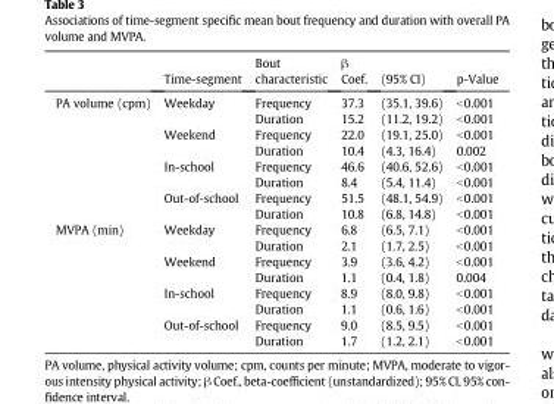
<table><thead><tr><td></td><td>Time-segment</td><td>Bout characteristic</td><td>β Coef.</td><td>(95% CI)</td><td>p-Value</td></tr></thead><tbody><tr><td rowspan="8">PA volume (cpm)</td><td rowspan="2">Weekday</td><td>Frequency</td><td>37.3</td><td>(35.1, 39.6)</td><td>&lt;0.001</td></tr><tr><td>Duration</td><td>15.2</td><td>(11.2, 19.2)</td><td>&lt;0.001</td></tr><tr><td rowspan="2">Weekend</td><td>Frequency</td><td>22.0</td><td>(19.1, 25.0)</td><td>&lt;0.001</td></tr><tr><td>Duration</td><td>10.4</td><td>(4.3, 16.4)</td><td>0.002</td></tr><tr><td rowspan="2">In-school</td><td>Frequency</td><td>46.6</td><td>(40.6, 52.6)</td><td>&lt;0.001</td></tr><tr><td>Duration</td><td>8.4</td><td>(5.4, 11.4)</td><td>&lt;0.001</td></tr><tr><td rowspan="2">Out-of-school</td><td>Frequency</td><td>51.5</td><td>(48.1, 54.9)</td><td>&lt;0.001</td></tr><tr><td>Duration</td><td>10.8</td><td>(6.8, 14.8)</td><td>&lt;0.001</td></tr><tr><td rowspan="8">MVPA (min)</td><td rowspan="2">Weekday</td><td>Frequency</td><td>6.8</td><td>(6.5, 7.1)</td><td>&lt;0.001</td></tr><tr><td>Duration</td><td>2.1</td><td>(1.7, 2.5)</td><td>&lt;0.001</td></tr><tr><td rowspan="2">Weekend</td><td>Frequency</td><td>3.9</td><td>(3.6, 4.2)</td><td>&lt;0.001</td></tr><tr><td>Duration</td><td>1.1</td><td>(0.4, 1.8)</td><td>0.004</td></tr><tr><td rowspan="2">In-school</td><td>Frequency</td><td>8.9</td><td>(8.0, 9.8)</td><td>&lt;0.001</td></tr><tr><td>Duration</td><td>1.1</td><td>(0.6, 1.6)</td><td>&lt;0.001</td></tr><tr><td rowspan="2">Out-of-school</td><td>Frequency</td><td>9.0</td><td>(8.5, 9.5)</td><td>&lt;0.001</td></tr><tr><td>Duration</td><td>1.7</td><td>(1.2, 2.1)</td><td>&lt;0.001</td></tr></tbody></table>